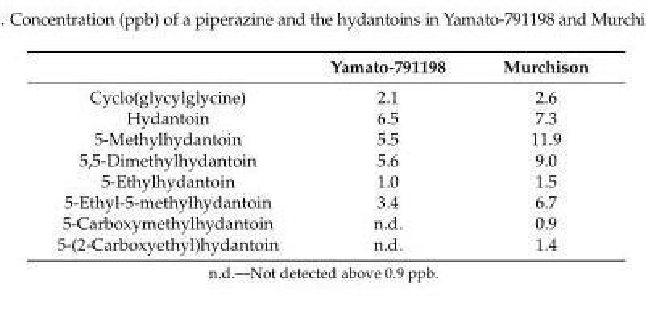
<table><thead><tr><td></td><td>Yamato-791198</td><td>Murchison</td></tr></thead><tbody><tr><td>Cyclo(glycylglycine)</td><td>2.1</td><td>2.6</td></tr><tr><td>Hydantoin</td><td>6.5</td><td>7.3</td></tr><tr><td>5-Methylhydantoin</td><td>5.5</td><td>11.9</td></tr><tr><td>5,5-Dimethylhydantoin</td><td>5.6</td><td>9.0</td></tr><tr><td>5-Ethylhydantoin</td><td>1.0</td><td>1.5</td></tr><tr><td>5-Ethyl-5-methylhydantoin</td><td>3.4</td><td>6.7</td></tr><tr><td>5-Carboxymethylhydantoin</td><td>n.d.</td><td>0.9</td></tr><tr><td>5-(2-Carboxyethyl)hydantoin</td><td>n.d.</td><td>1.4</td></tr></tbody></table>